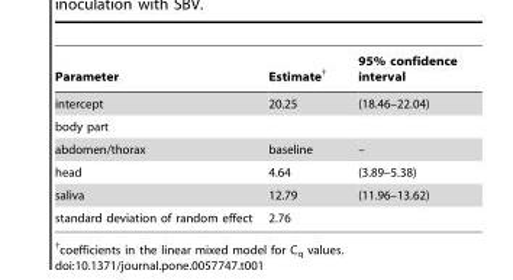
<table><thead><tr><td>Parameter</td><td>Estimate†</td><td>95% confidence interval</td></tr></thead><tbody><tr><td>intercept</td><td>20.25</td><td>(18.46–22.04)</td></tr><tr><td colspan="3">body part</td></tr><tr><td>abdomen/thorax</td><td>baseline</td><td>–</td></tr><tr><td>head</td><td>4.64</td><td>(3.89–5.38)</td></tr><tr><td>saliva</td><td>12.79</td><td>(11.96–13.62)</td></tr><tr><td>standard deviation of random effect</td><td>2.76</td><td></td></tr></tbody></table>